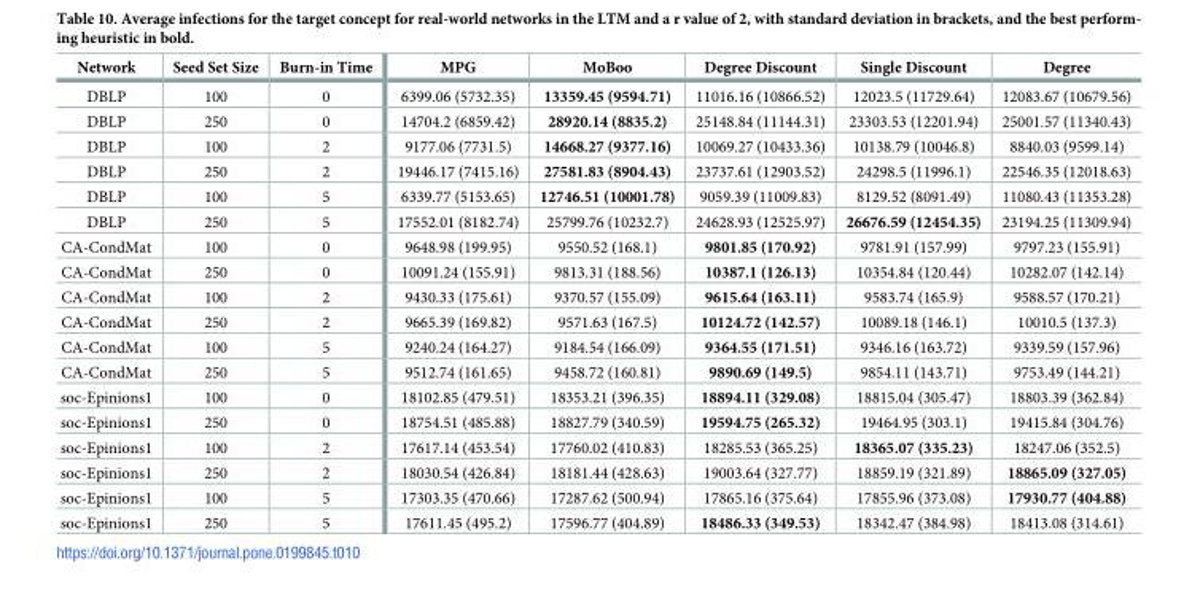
<table><thead><tr><td>Network</td><td>Seed Set Size</td><td>Burn-in Time</td><td>MPG</td><td>MoBoo</td><td>Degree Discount</td><td>Single Discount</td><td>Degree</td></tr></thead><tbody><tr><td>DBLP</td><td>100</td><td>0</td><td>6399.06 (5732.35)</td><td>13359.45 (9594.71)</td><td>11016.16 (10866.52)</td><td>12023.5 (11729.64)</td><td>12083.67 (10679.56)</td></tr><tr><td>DBLP</td><td>250</td><td>0</td><td>14704.2 (6859.42)</td><td>28920.14 (8835.2)</td><td>25148.84 (11144.31)</td><td>23303.53 (12201.94)</td><td>25001.57 (11340.43)</td></tr><tr><td>DBLP</td><td>100</td><td>2</td><td>9177.06 (7731.5)</td><td>14668.27 (9377.16)</td><td>10069.27 (10433.36)</td><td>10138.79 (10046.8)</td><td>8840.03 (9599.14)</td></tr><tr><td>DBLP</td><td>250</td><td>2</td><td>19446.17 (7415.16)</td><td>27581.83 (8904.43)</td><td>23737.61 (12903.52)</td><td>24298.5 (11996.1)</td><td>22546.35 (12018.63)</td></tr><tr><td>DBLP</td><td>100</td><td>5</td><td>6339.77 (5153.65)</td><td>12746.51 (10001.78)</td><td>9059.39 (11009.83)</td><td>8129.52 (8091.49)</td><td>11080.43 (11353.28)</td></tr><tr><td>DBLP</td><td>250</td><td>5</td><td>17552.01 (8182.74)</td><td>25799.76 (10232.7)</td><td>24628.93 (12525.97)</td><td>26676.59 (12454.35)</td><td>23194.25 (11309.94)</td></tr><tr><td>CA-CondMat</td><td>100</td><td>0</td><td>9648.98 (199.95)</td><td>9550.52 (168.1)</td><td>9801.85 (170.92)</td><td>9781.91 (157.99)</td><td>9797.23 (155.91)</td></tr><tr><td>CA-CondMat</td><td>250</td><td>0</td><td>10091.24 (155.91)</td><td>9813.31 (188.56)</td><td>10387.1 (126.13)</td><td>10354.84 (120.44)</td><td>10282.07 (142.14)</td></tr><tr><td>CA-CondMat</td><td>100</td><td>2</td><td>9430.33 (175.61)</td><td>9370.57 (155.09)</td><td>9615.64 (163.11)</td><td>9583.74 (165.9)</td><td>9588.57 (170.21)</td></tr><tr><td>CA-CondMat</td><td>250</td><td>2</td><td>9665.39 (169.82)</td><td>9571.63 (167.5)</td><td>10124.72 (142.57)</td><td>10089.18 (146.1)</td><td>10010.5 (137.3)</td></tr><tr><td>CA-CondMat</td><td>100</td><td>5</td><td>9240.24 (164.27)</td><td>9184.54 (166.09)</td><td>9364.55 (171.51)</td><td>9346.16 (163.72)</td><td>9339.59 (157.96)</td></tr><tr><td>CA-CondMat</td><td>250</td><td>5</td><td>9512.74 (161.65)</td><td>9458.72 (160.81)</td><td>9890.69 (149.5)</td><td>9854.11 (143.71)</td><td>9753.49 (144.21)</td></tr><tr><td>soc-Epinions1</td><td>100</td><td>0</td><td>18102.85 (479.51)</td><td>18353.21 (396.35)</td><td>18894.11 (329.08)</td><td>18815.04 (305.47)</td><td>18803.39 (362.84)</td></tr><tr><td>soc-Epinions1</td><td>250</td><td>0</td><td>18754.51 (485.88)</td><td>18827.79 (340.59)</td><td>19594.75 (265.32)</td><td>19464.95 (303.1)</td><td>19415.84 (304.76)</td></tr><tr><td>soc-Epinions1</td><td>100</td><td>2</td><td>17617.14 (453.54)</td><td>17760.02 (410.83)</td><td>18285.53 (365.25)</td><td>18365.07 (335.23)</td><td>18247.06 (352.5)</td></tr><tr><td>soc-Epinions1</td><td>250</td><td>2</td><td>18030.54 (426.84)</td><td>18181.44 (428.63)</td><td>19003.64 (327.77)</td><td>18859.19 (321.89)</td><td>18865.09 (327.05)</td></tr><tr><td>soc-Epinions1</td><td>100</td><td>5</td><td>17303.35 (470.66)</td><td>17287.62 (500.94)</td><td>17865.16 (375.64)</td><td>17855.96 (373.08)</td><td>17930.77 (404.88)</td></tr><tr><td>soc-Epinions1</td><td>250</td><td>5</td><td>17611.45 (495.2)</td><td>17596.77 (404.89)</td><td>18486.33 (349.53)</td><td>18342.47 (384.98)</td><td>18413.08 (314.61)</td></tr></tbody></table>